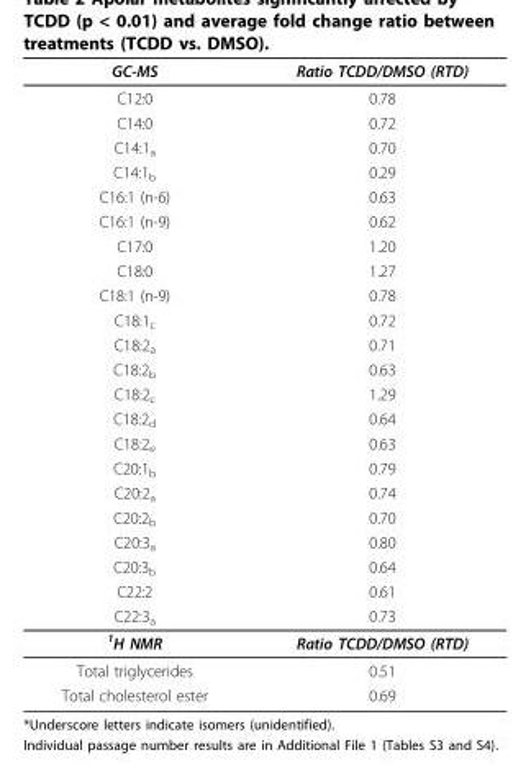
<table><thead><tr><td>GC-MS</td><td>Ratio TCDD/DMSO (RTD)</td></tr></thead><tbody><tr><td>C12:0</td><td>0.78</td></tr><tr><td>C14:0</td><td>0.72</td></tr><tr><td>C14:1<sub>a</sub></td><td>0.70</td></tr><tr><td>C14:1<sub>b</sub></td><td>0.29</td></tr><tr><td>C16:1 (n-6)</td><td>0.63</td></tr><tr><td>C16:1 (n-9)</td><td>0.62</td></tr><tr><td>C17:0</td><td>1.20</td></tr><tr><td>C18:0</td><td>1.27</td></tr><tr><td>C18:1 (n-9)</td><td>0.78</td></tr><tr><td>C18:1<sub>c</sub></td><td>0.72</td></tr><tr><td>C18:2<sub>a</sub></td><td>0.71</td></tr><tr><td>C18:2<sub>b</sub></td><td>0.63</td></tr><tr><td>C18:2<sub>c</sub></td><td>1.29</td></tr><tr><td>C18:2<sub>d</sub></td><td>0.64</td></tr><tr><td>C18:2<sub>e</sub></td><td>0.63</td></tr><tr><td>C20:1<sub>b</sub></td><td>0.79</td></tr><tr><td>C20:2<sub>a</sub></td><td>0.74</td></tr><tr><td>C20:2<sub>b</sub></td><td>0.70</td></tr><tr><td>C20:3<sub>a</sub></td><td>0.80</td></tr><tr><td>C20:3<sub>b</sub></td><td>0.64</td></tr><tr><td>C22:2</td><td>0.61</td></tr><tr><td>C22:3<sub>a</sub></td><td>0.73</td></tr><tr><td><sup>1</sup>H NMR</td><td>Ratio TCDD/DMSO (RTD)</td></tr><tr><td>Total triglycerides</td><td>0.51</td></tr><tr><td>Total cholesterol ester</td><td>0.69</td></tr></tbody></table>